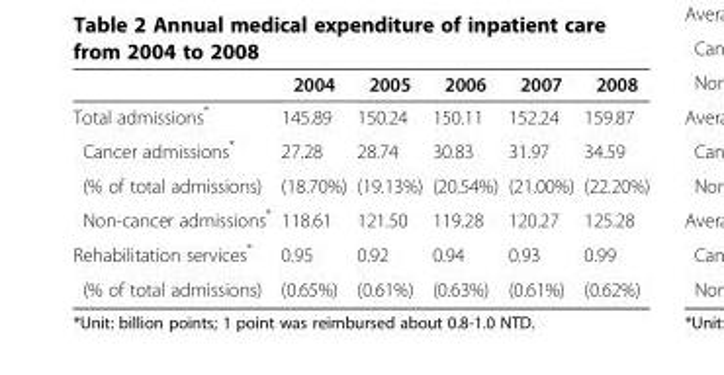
<table><thead><tr><td></td><td>2004</td><td>2005</td><td>2006</td><td>2007</td><td>2008</td></tr></thead><tbody><tr><td>Total admissions*</td><td>145.89</td><td>150.24</td><td>150.11</td><td>152.24</td><td>159.87</td></tr><tr><td>Cancer admissions*</td><td>27.28</td><td>28.74</td><td>30.83</td><td>31.97</td><td>34.59</td></tr><tr><td>(% of total admissions)</td><td>(18.70%)</td><td>(19.13%)</td><td>(20.54%)</td><td>(21.00%)</td><td>(22.20%)</td></tr><tr><td>Non-cancer admissions*</td><td>118.61</td><td>121.50</td><td>119.28</td><td>120.27</td><td>125.28</td></tr><tr><td>Rehabilitation services*</td><td>0.95</td><td>0.92</td><td>0.94</td><td>0.93</td><td>0.99</td></tr><tr><td>(% of total admissions)</td><td>(0.65%)</td><td>(0.61%)</td><td>(0.63%)</td><td>(0.61%)</td><td>(0.62%)</td></tr></tbody></table>